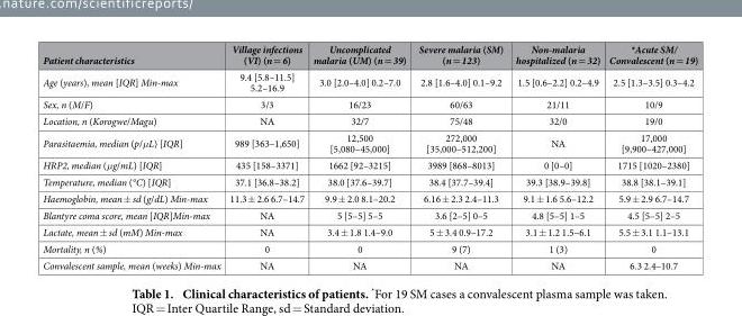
<table><thead><tr><td>Patient characteristics</td><td>Village infections (VI) (n = 6)</td><td>Uncomplicated malaria (UM) (n = 39)</td><td>Severe malaria (SM) (n = 123)</td><td>Non-malaria hospitalized (n = 32)</td><td>*Acute SM/ Convalescent (n = 19)</td></tr></thead><tbody><tr><td>Age (years), mean [IQR] Min-max</td><td>9.4 [5.8–11.5] 5.2–16.9</td><td>3.0 [2.0–4.0] 0.2–7.0</td><td>2.8 [1.6–4.0] 0.1–9.2</td><td>1.5 [0.6–2.2] 0.2–4.9</td><td>2.5 [1.3–3.5] 0.3–4.2</td></tr><tr><td>Sex, n (M/F)</td><td>3/3</td><td>16/23</td><td>60/63</td><td>21/11</td><td>10/9</td></tr><tr><td>Location, n (Korogwe/Magu)</td><td>NA</td><td>32/7</td><td>75/48</td><td>32/0</td><td>19/0</td></tr><tr><td>Parasitaemia, median (p/μL) [IQR]</td><td>989 [363–1,650]</td><td>12,500 [5,080–45,000]</td><td>272,000 [35,000–512,200]</td><td>NA</td><td>17,000 [9,900–427,000]</td></tr><tr><td>HRP2, median (μg/mL) [IQR]</td><td>435 [158–3371]</td><td>1662 [92–3215]</td><td>3989 [868–8013]</td><td>0 [0–0]</td><td>1715 [1020–2380]</td></tr><tr><td>Temperature, median (°C) [IQR]</td><td>37.1 [36.8–38.2]</td><td>38.0 [37.6–39.7]</td><td>38.4 [37.7–39.4]</td><td>39.3 [38.9–39.8]</td><td>38.8 [38.1–39.1]</td></tr><tr><td>Haemoglobin, mean ± sd (g/dL) Min-max</td><td>11.3 ± 2.6 6.7–14.7</td><td>9.9 ± 2.0 8.1–20.2</td><td>6.16 ± 2.3 2.4–11.3</td><td>9.1 ± 1.6 5.6–12.2</td><td>5.9 ± 2.9 6.7–14.7</td></tr><tr><td>Blantyre coma score, mean [IQR]Min-max</td><td>NA</td><td>5 [5–5] 5–5</td><td>3.6 [2–5] 0–5</td><td>4.8 [5–5] 1–5</td><td>4.5 [5–5] 2–5</td></tr><tr><td>Lactate, mean ± sd (mM) Min-max</td><td>NA</td><td>3.4 ± 1.8 1.4–9.0</td><td>5 ± 3.4 0.9–17.2</td><td>3.1 ± 1.2 1.5–6.1</td><td>5.5 ± 3.1 1.1–13.1</td></tr><tr><td>Mortality, n (%)</td><td>0</td><td>0</td><td>9 (7)</td><td>1 (3)</td><td>0</td></tr><tr><td>Convalescent sample, mean (weeks) Min-max</td><td>NA</td><td>NA</td><td>NA</td><td>NA</td><td>6.3 2.4–10.7</td></tr></tbody></table>